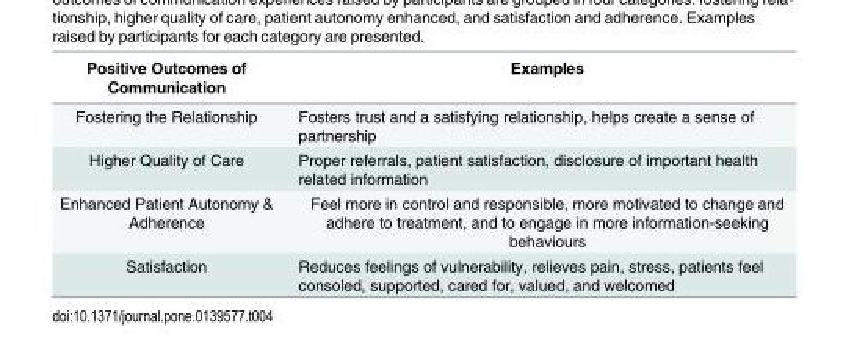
<table><thead><tr><td>Positive Outcomes of Communication</td><td>Examples</td></tr></thead><tbody><tr><td>Fostering the Relationship</td><td>Fosters trust and a satisfying relationship, helps create a sense of partnership</td></tr><tr><td>Higher Quality of Care</td><td>Proper referrals, patient satisfaction, disclosure of important health related information</td></tr><tr><td>Enhanced Patient Autonomy &amp; Adherence</td><td>Feel more in control and responsible, more motivated to change and adhere to treatment, and to engage in more information-seeking behaviours</td></tr><tr><td>Satisfaction</td><td>Reduces feelings of vulnerability, relieves pain, stress, patients feel consoled, supported, cared for, valued, and welcomed</td></tr></tbody></table>